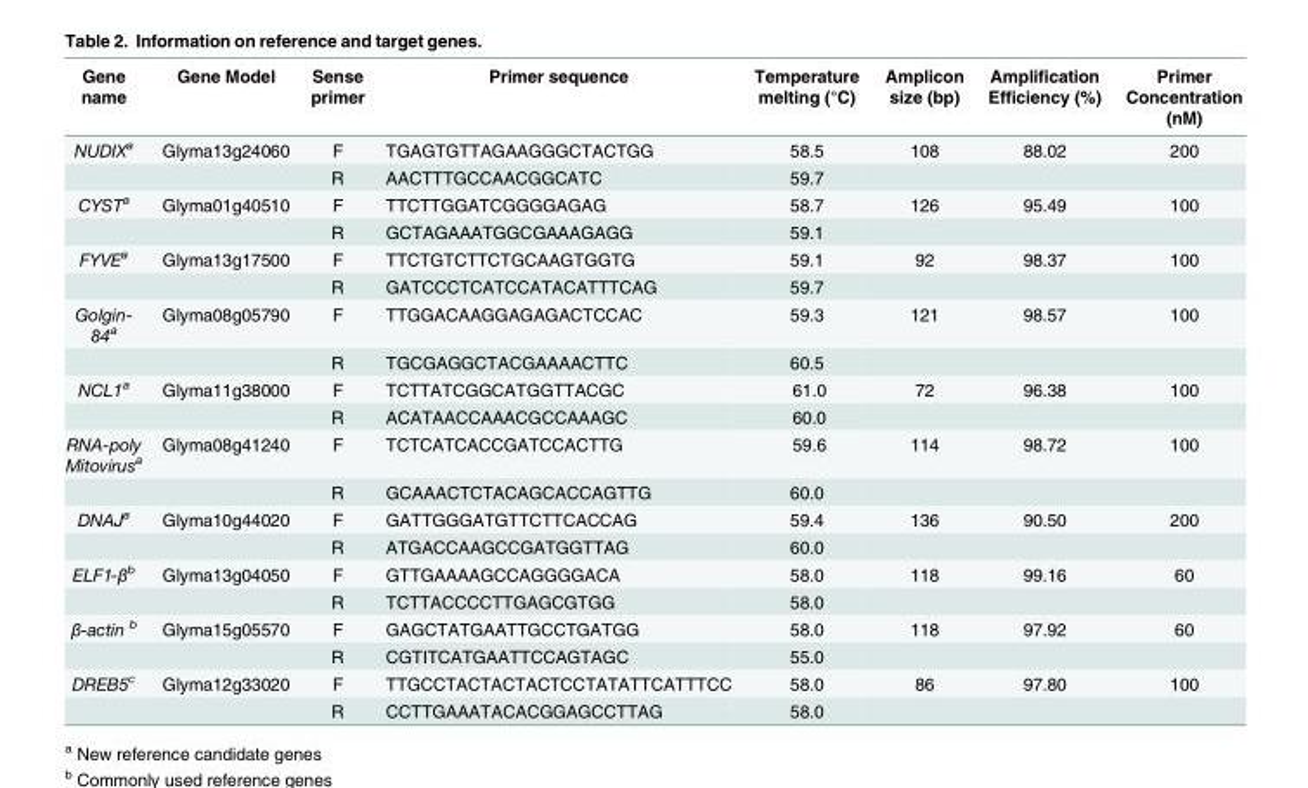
<table><thead><tr><td>Gene name</td><td>Gene Model</td><td>Sense primer</td><td>Primer sequence</td><td>Temperature melting (°C)</td><td>Amplicon size (bp)</td><td>Amplification Efficiency (%)</td><td>Primer Concentration (nM)</td></tr></thead><tbody><tr><td rowspan="2">NUDIX<sup>a</sup></td><td>Glyma13g24060</td><td>F</td><td>TGAGTGTTAGAAGGGCTACTGG</td><td>58.5</td><td>108</td><td>88.02</td><td>200</td></tr><tr><td></td><td>R</td><td>AACTTTGCCAACGGCATC</td><td>59.7</td><td></td><td></td><td></td></tr><tr><td rowspan="2">CYST<sup>a</sup></td><td>Glyma01g40510</td><td>F</td><td>TTCTTGGATCGGGGAGAG</td><td>58.7</td><td>126</td><td>95.49</td><td>100</td></tr><tr><td></td><td>R</td><td>GCTAGAAATGGCGAAAGAGG</td><td>59.1</td><td></td><td></td><td></td></tr><tr><td rowspan="2">FYVE<sup>a</sup></td><td>Glyma13g17500</td><td>F</td><td>TTCTGTCTTCTGCAAGTGGTG</td><td>59.1</td><td>92</td><td>98.37</td><td>100</td></tr><tr><td></td><td>R</td><td>GATCCCTCATCCATACATTTCAG</td><td>59.7</td><td></td><td></td><td></td></tr><tr><td rowspan="2">Golgin- 84<sup>a</sup></td><td>Glyma08g05790</td><td>F</td><td>TTGGACAAGGAGAGACTCCAC</td><td>59.3</td><td>121</td><td>98.57</td><td>100</td></tr><tr><td></td><td>R</td><td>TGCGAGGCTACGAAAACTTC</td><td>60.5</td><td></td><td></td><td></td></tr><tr><td rowspan="2">NCL1<sup>a</sup></td><td>Glyma11g38000</td><td>F</td><td>TCTTATCGGCATGGTTACGC</td><td>61.0</td><td>72</td><td>96.38</td><td>100</td></tr><tr><td></td><td>R</td><td>ACATAACCAAACGCCAAAGC</td><td>60.0</td><td></td><td></td><td></td></tr><tr><td rowspan="2">RNA-poly Mitovirus<sup>a</sup></td><td>Glyma08g41240</td><td>F</td><td>TCTCATCACCGATCCACTTG</td><td>59.6</td><td>114</td><td>98.72</td><td>100</td></tr><tr><td></td><td>R</td><td>GCAAACTCTACAGCACCAGTTG</td><td>60.0</td><td></td><td></td><td></td></tr><tr><td rowspan="2">DNAJ<sup>a</sup></td><td>Glyma10g44020</td><td>F</td><td>GATTGGGATGTTCTTCACCAG</td><td>59.4</td><td>136</td><td>90.50</td><td>200</td></tr><tr><td></td><td>R</td><td>ATGACCAAGCCGATGGTTAG</td><td>60.0</td><td></td><td></td><td></td></tr><tr><td rowspan="2">ELF1-β<sup>b</sup></td><td>Glyma13g04050</td><td>F</td><td>GTTGAAAAGCCAGGGGACA</td><td>58.0</td><td>118</td><td>99.16</td><td>60</td></tr><tr><td></td><td>R</td><td>TCTTACCCCTTGAGCGTGG</td><td>58.0</td><td></td><td></td><td></td></tr><tr><td rowspan="2">β-actin <sup>b</sup></td><td>Glyma15g05570</td><td>F</td><td>GAGCTATGAATTGCCTGATGG</td><td>58.0</td><td>118</td><td>97.92</td><td>60</td></tr><tr><td></td><td>R</td><td>CGTITCATGAATTCCAGTAGC</td><td>55.0</td><td></td><td></td><td></td></tr><tr><td rowspan="2">DREB5<sup>c</sup></td><td>Glyma12g33020</td><td>F</td><td>TTGCCTACTACTACTCCTATATTCATTTCC</td><td>58.0</td><td>86</td><td>97.80</td><td>100</td></tr><tr><td></td><td>R</td><td>CCTTGAAATACACGGAGCCTTAG</td><td>58.0</td><td></td><td></td><td></td></tr></tbody></table>